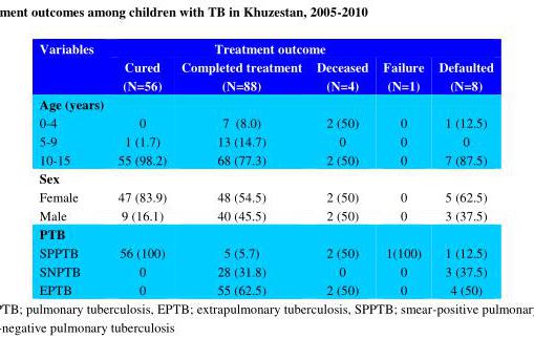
<table><thead><tr><td rowspan="2">Variables</td><td colspan="5">Treatment outcome</td></tr><tr><td>Cured (N=56)</td><td>Completed treatment (N=88)</td><td>Deceased (N=4)</td><td>Failure (N=1)</td><td>Defaulted (N=8)</td></tr></thead><tbody><tr><td>Age (years) 0-4 5-9 10-15</td><td>0 1 (1.7) 55 (98.2)</td><td>7 (8.0) 13 (14.7) 68 (77.3)</td><td>2 (50) 0 2 (50)</td><td>0 0 0</td><td>1 (12.5) 0 7 (87.5)</td></tr><tr><td>Sex Female Male</td><td>47 (83.9) 9 (16.1)</td><td>48 (54.5) 40 (45.5)</td><td>2 (50) 2 (50)</td><td>0 0</td><td>5 (62.5) 3 (37.5)</td></tr><tr><td>PTB SPPTB SNPTB EPTB</td><td>56 (100) 0 0</td><td>5 (5.7) 28 (31.8) 55 (62.5)</td><td>2 (50) 0 2 (50)</td><td>1(100) 0 0</td><td>1 (12.5) 3 (37.5) 4 (50)</td></tr></tbody></table>